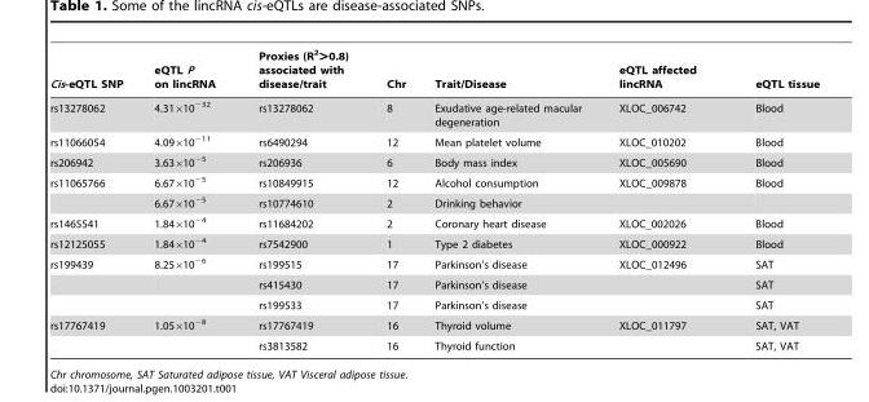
<table><thead><tr><td>Cis-eQTL SNP</td><td>eQTL P on lincRNA</td><td>Proxies (R<sup>2</sup>&gt;0.8) associated with disease/trait</td><td>Chr</td><td>Trait/Disease</td><td>eQTL affected lincRNA</td><td>eQTL tissue</td></tr></thead><tbody><tr><td>rs13278062</td><td>4.31×10<sup>−32</sup></td><td>rs13278062</td><td>8</td><td>Exudative age-related macular degeneration</td><td>XLOC_006742</td><td>Blood</td></tr><tr><td>rs11066054</td><td>4.09×10<sup>−11</sup></td><td>rs6490294</td><td>12</td><td>Mean platelet volume</td><td>XLOC_010202</td><td>Blood</td></tr><tr><td>rs206942</td><td>3.63×10<sup>−5</sup></td><td>rs206936</td><td>6</td><td>Body mass index</td><td>XLOC_005690</td><td>Blood</td></tr><tr><td rowspan="2">rs11065766</td><td>6.67×10<sup>−5</sup></td><td>rs10849915</td><td>12</td><td>Alcohol consumption</td><td>XLOC_009878</td><td>Blood</td></tr><tr><td>6.67×10<sup>−5</sup></td><td>rs10774610</td><td>2</td><td>Drinking behavior</td><td></td><td></td></tr><tr><td>rs1465541</td><td>1.84×10<sup>−4</sup></td><td>rs11684202</td><td>2</td><td>Coronary heart disease</td><td>XLOC_002026</td><td>Blood</td></tr><tr><td>rs12125055</td><td>1.84×10<sup>−4</sup></td><td>rs7542900</td><td>1</td><td>Type 2 diabetes</td><td>XLOC_000922</td><td>Blood</td></tr><tr><td rowspan="3">rs199439</td><td>8.25×10<sup>−6</sup></td><td>rs199515</td><td>17</td><td>Parkinson’s disease</td><td>XLOC_012496</td><td>SAT</td></tr><tr><td></td><td>rs415430</td><td>17</td><td>Parkinson’s disease</td><td></td><td>SAT</td></tr><tr><td></td><td>rs199533</td><td>17</td><td>Parkinson’s disease</td><td></td><td>SAT</td></tr><tr><td rowspan="2">rs17767419</td><td>1.05×10<sup>−8</sup></td><td>rs17767419</td><td>16</td><td>Thyroid volume</td><td>XLOC_011797</td><td>SAT, VAT</td></tr><tr><td></td><td>rs3813582</td><td>16</td><td>Thyroid function</td><td></td><td>SAT, VAT</td></tr></tbody></table>